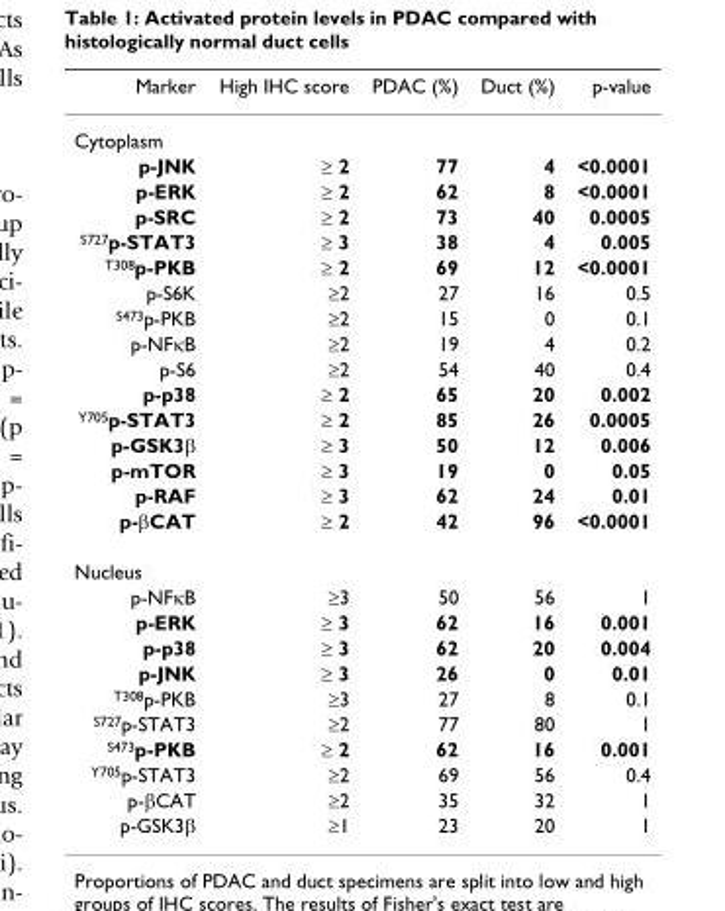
<table><thead><tr><td>Marker</td><td>High IHC score</td><td>PDAC (%)</td><td>Duct (%)</td><td>p-value</td></tr></thead><tbody><tr><td colspan="5">Cytoplasm</td></tr><tr><td>p-JNK</td><td>≥ 2</td><td>77</td><td>4</td><td>&lt;0.0001</td></tr><tr><td>p-ERK</td><td>≥ 2</td><td>62</td><td>8</td><td>&lt;0.0001</td></tr><tr><td>p-SRC</td><td>≥ 2</td><td>73</td><td>40</td><td>0.0005</td></tr><tr><td><sup>S727</sup>p-STAT3</td><td>≥ 3</td><td>38</td><td>4</td><td>0.005</td></tr><tr><td><sup>T308</sup>p-PKB</td><td>≥ 2</td><td>69</td><td>12</td><td>&lt;0.0001</td></tr><tr><td>p-S6K</td><td>≥2</td><td>27</td><td>16</td><td>0.5</td></tr><tr><td><sup>S473</sup>p-PKB</td><td>≥2</td><td>15</td><td>0</td><td>0.1</td></tr><tr><td>p-NFκB</td><td>≥2</td><td>19</td><td>4</td><td>0.2</td></tr><tr><td>p-S6</td><td>≥2</td><td>54</td><td>40</td><td>0.4</td></tr><tr><td>p-p38</td><td>≥ 2</td><td>65</td><td>20</td><td>0.002</td></tr><tr><td><sup>Y705</sup>p-STAT3</td><td>≥ 2</td><td>85</td><td>26</td><td>0.0005</td></tr><tr><td>p-GSK3β</td><td>≥ 3</td><td>50</td><td>12</td><td>0.006</td></tr><tr><td>p-mTOR</td><td>≥ 3</td><td>19</td><td>0</td><td>0.05</td></tr><tr><td>p-RAF</td><td>≥ 3</td><td>62</td><td>24</td><td>0.01</td></tr><tr><td>p-βCAT</td><td>≥ 2</td><td>42</td><td>96</td><td>&lt;0.0001</td></tr><tr><td colspan="5">Nucleus</td></tr><tr><td>p-NFκB</td><td>≥3</td><td>50</td><td>56</td><td>1</td></tr><tr><td>p-ERK</td><td>≥ 3</td><td>62</td><td>16</td><td>0.001</td></tr><tr><td>p-p38</td><td>≥ 3</td><td>62</td><td>20</td><td>0.004</td></tr><tr><td>p-JNK</td><td>≥ 3</td><td>26</td><td>0</td><td>0.01</td></tr><tr><td><sup>T308</sup>p-PKB</td><td>≥3</td><td>27</td><td>8</td><td>0.1</td></tr><tr><td><sup>S727</sup>p-STAT3</td><td>≥2</td><td>77</td><td>80</td><td>1</td></tr><tr><td><sup>S473</sup>p-PKB</td><td>≥ 2</td><td>62</td><td>16</td><td>0.001</td></tr><tr><td><sup>Y705</sup>p-STAT3</td><td>≥2</td><td>69</td><td>56</td><td>0.4</td></tr><tr><td>p-βCAT</td><td>≥2</td><td>35</td><td>32</td><td>1</td></tr><tr><td>p-GSK3β</td><td>≥1</td><td>23</td><td>20</td><td>1</td></tr></tbody></table>